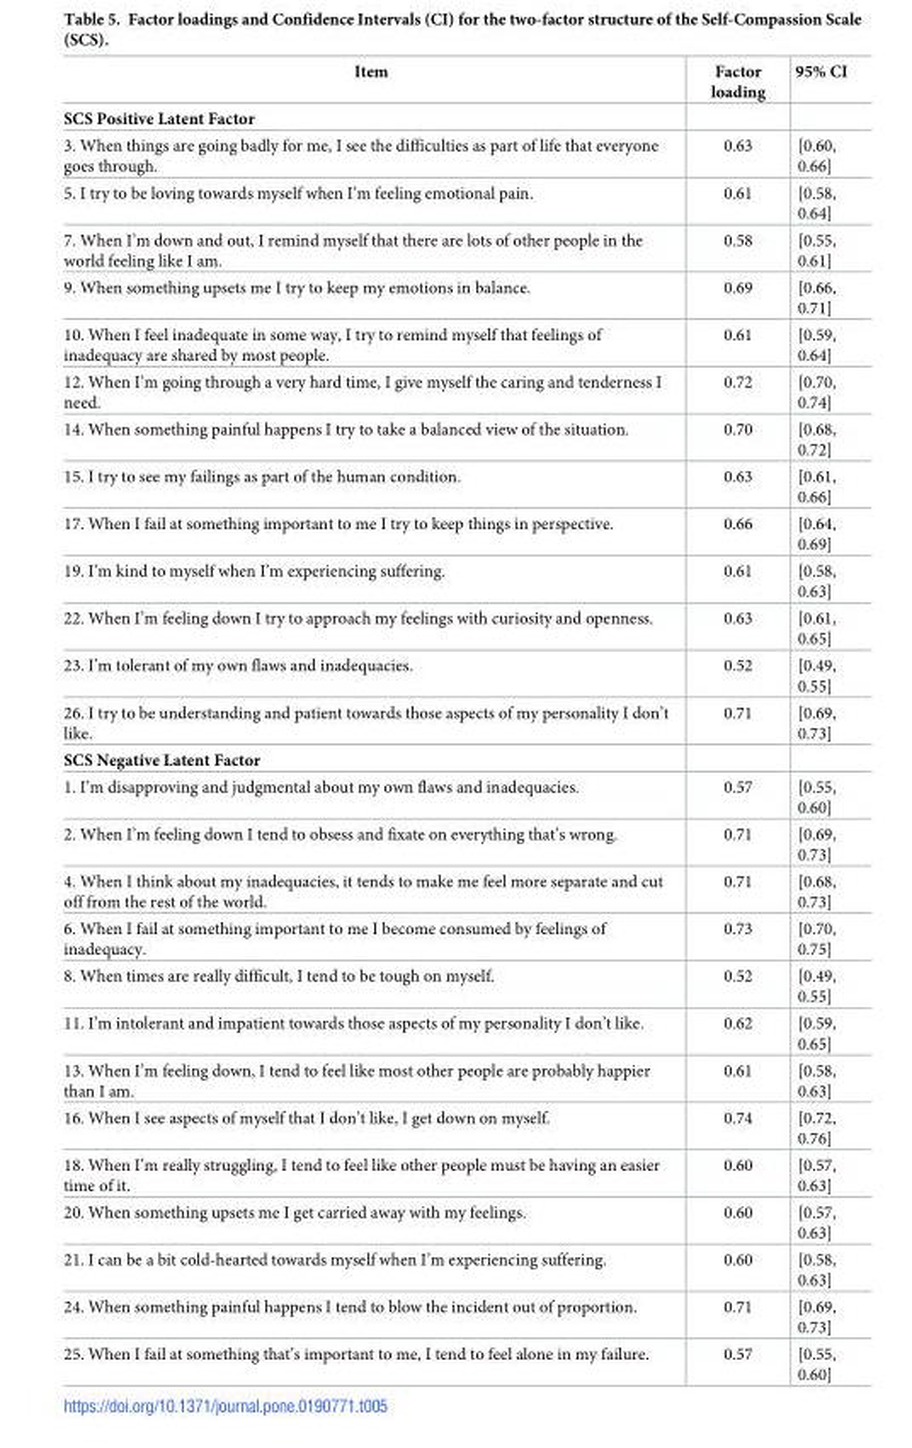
<table><thead><tr><td>Item</td><td>Factor loading</td><td>95% CI</td></tr></thead><tbody><tr><td colspan="3">SCS Positive Latent Factor</td></tr><tr><td>3. When things are going badly for me, I see the difficulties as part of life that everyone goes through.</td><td>0.63</td><td>[0.60, 0.66]</td></tr><tr><td>5. I try to be loving towards myself when I’m feeling emotional pain.</td><td>0.61</td><td>[0.58, 0.64]</td></tr><tr><td>7. When I’m down and out, I remind myself that there are lots of other people in the world feeling like I am.</td><td>0.58</td><td>[0.55, 0.61]</td></tr><tr><td>9. When something upsets me I try to keep my emotions in balance.</td><td>0.69</td><td>[0.66, 0.71]</td></tr><tr><td>10. When I feel inadequate in some way, I try to remind myself that feelings of inadequacy are shared by most people.</td><td>0.61</td><td>[0.59, 0.64]</td></tr><tr><td>12. When I’m going through a very hard time, I give myself the caring and tenderness I need.</td><td>0.72</td><td>[0.70, 0.74]</td></tr><tr><td>14. When something painful happens I try to take a balanced view of the situation.</td><td>0.70</td><td>[0.68, 0.72]</td></tr><tr><td>15. I try to see my failings as part of the human condition.</td><td>0.63</td><td>[0.61, 0.66]</td></tr><tr><td>17. When I fail at something important to me I try to keep things in perspective.</td><td>0.66</td><td>[0.64, 0.69]</td></tr><tr><td>19. I’m kind to myself when I’m experiencing suffering.</td><td>0.61</td><td>[0.58, 0.63]</td></tr><tr><td>22. When I’m feeling down I try to approach my feelings with curiosity and openness.</td><td>0.63</td><td>[0.61, 0.65]</td></tr><tr><td>23. I’m tolerant of my own flaws and inadequacies.</td><td>0.52</td><td>[0.49, 0.55]</td></tr><tr><td>26. I try to be understanding and patient towards those aspects of my personality I don’t like.</td><td>0.71</td><td>[0.69, 0.73]</td></tr><tr><td colspan="3">SCS Negative Latent Factor</td></tr><tr><td>1. I’m disapproving and judgmental about my own flaws and inadequacies.</td><td>0.57</td><td>[0.55, 0.60]</td></tr><tr><td>2. When I’m feeling down I tend to obsess and fixate on everything that’s wrong.</td><td>0.71</td><td>[0.69, 0.73]</td></tr><tr><td>4. When I think about my inadequacies, it tends to make me feel more separate and cut off from the rest of the world.</td><td>0.71</td><td>[0.68, 0.73]</td></tr><tr><td>6. When I fail at something important to me I become consumed by feelings of inadequacy.</td><td>0.73</td><td>[0.70, 0.75]</td></tr><tr><td>8. When times are really difficult, I tend to be tough on myself.</td><td>0.52</td><td>[0.49, 0.55]</td></tr><tr><td>11. I’m intolerant and impatient towards those aspects of my personality I don’t like.</td><td>0.62</td><td>[0.59, 0.65]</td></tr><tr><td>13. When I’m feeling down, I tend to feel like most other people are probably happier than I am.</td><td>0.61</td><td>[0.58, 0.63]</td></tr><tr><td>16. When I see aspects of myself that I don’t like, I get down on myself.</td><td>0.74</td><td>[0.72, 0.76]</td></tr><tr><td>18. When I’m really struggling, I tend to feel like other people must be having an easier time of it.</td><td>0.60</td><td>[0.57, 0.63]</td></tr><tr><td>20. When something upsets me I get carried away with my feelings.</td><td>0.60</td><td>[0.57, 0.63]</td></tr><tr><td>21. I can be a bit cold-hearted towards myself when I’m experiencing suffering.</td><td>0.60</td><td>[0.58, 0.63]</td></tr><tr><td>24. When something painful happens I tend to blow the incident out of proportion.</td><td>0.71</td><td>[0.69, 0.73]</td></tr><tr><td>25. When I fail at something that’s important to me, I tend to feel alone in my failure.</td><td>0.57</td><td>[0.55, 0.60]</td></tr></tbody></table>